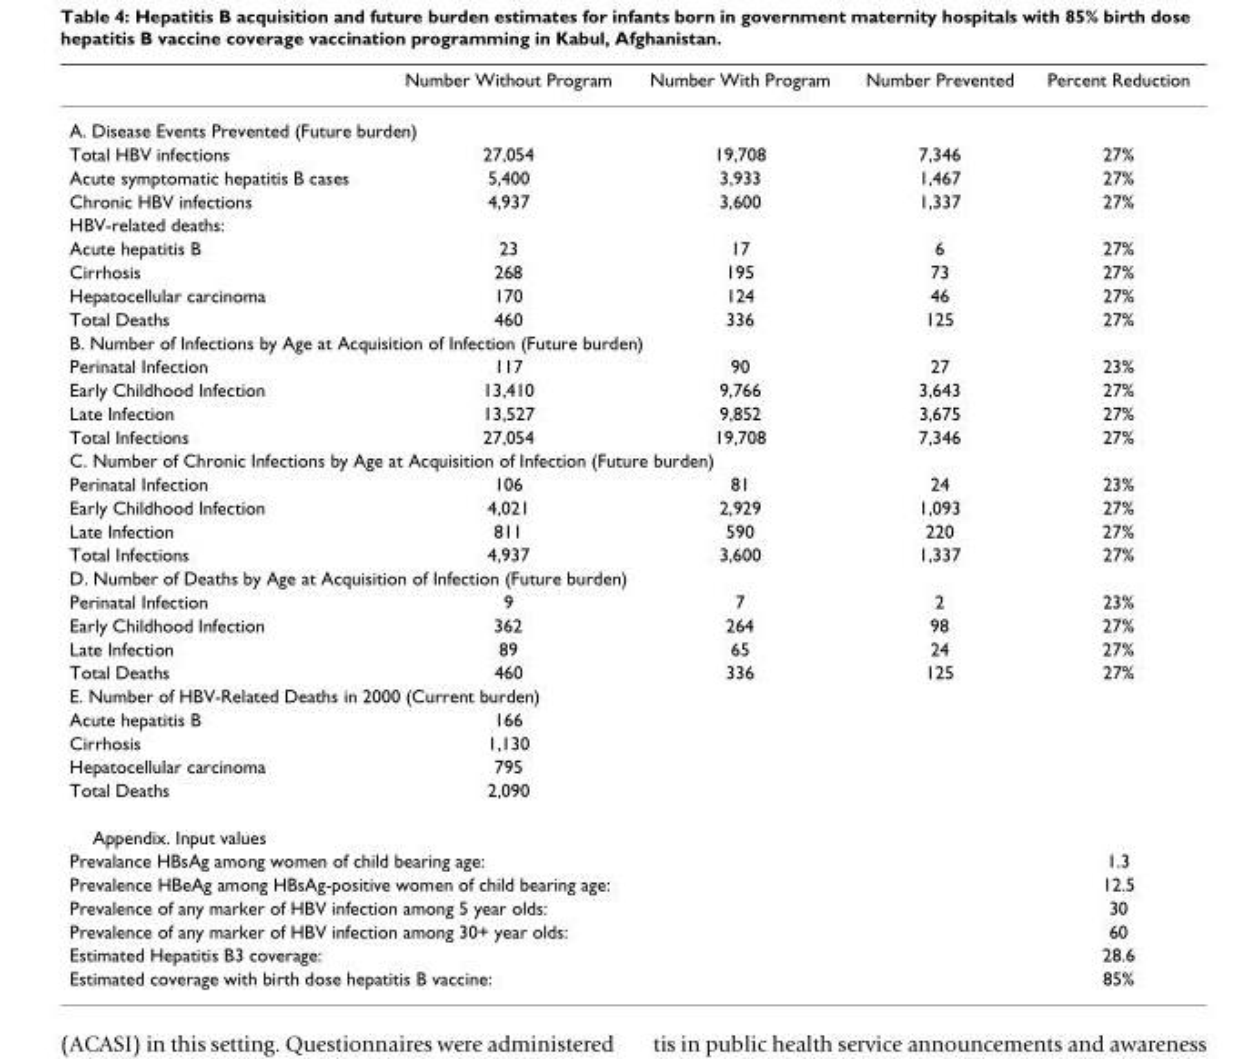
<table><thead><tr><td></td><td>Number Without Program</td><td>Number With Program</td><td>Number Prevented</td><td>Percent Reduction</td></tr></thead><tbody><tr><td colspan="5">A. Disease Events Prevented (Future burden)</td></tr><tr><td>Total HBV infections</td><td>27,054</td><td>19,708</td><td>7,346</td><td>27%</td></tr><tr><td>Acute symptomatic hepatitis B cases</td><td>5,400</td><td>3,933</td><td>1,467</td><td>27%</td></tr><tr><td>Chronic HBV infections</td><td>4,937</td><td>3,600</td><td>1,337</td><td>27%</td></tr><tr><td colspan="5">HBV-related deaths:</td></tr><tr><td>Acute hepatitis B</td><td>23</td><td>17</td><td>6</td><td>27%</td></tr><tr><td>Cirrhosis</td><td>268</td><td>195</td><td>73</td><td>27%</td></tr><tr><td>Hepatocellular carcinoma</td><td>170</td><td>124</td><td>46</td><td>27%</td></tr><tr><td>Total Deaths</td><td>460</td><td>336</td><td>125</td><td>27%</td></tr><tr><td colspan="5">B. Number of Infections by Age at Acquisition of Infection (Future burden)</td></tr><tr><td>Perinatal Infection</td><td>117</td><td>90</td><td>27</td><td>23%</td></tr><tr><td>Early Childhood Infection</td><td>13,410</td><td>9,766</td><td>3,643</td><td>27%</td></tr><tr><td>Late Infection</td><td>13,527</td><td>9,852</td><td>3,675</td><td>27%</td></tr><tr><td>Total Infections</td><td>27,054</td><td>19,708</td><td>7,346</td><td>27%</td></tr><tr><td colspan="5">C. Number of Chronic Infections by Age at Acquisition of Infection (Future burden)</td></tr><tr><td>Perinatal Infection</td><td>106</td><td>81</td><td>24</td><td>23%</td></tr><tr><td>Early Childhood Infection</td><td>4,021</td><td>2,929</td><td>1,093</td><td>27%</td></tr><tr><td>Late Infection</td><td>811</td><td>590</td><td>220</td><td>27%</td></tr><tr><td>Total Infections</td><td>4,937</td><td>3,600</td><td>1,337</td><td>27%</td></tr><tr><td colspan="5">D. Number of Deaths by Age at Acquisition of Infection (Future burden)</td></tr><tr><td>Perinatal Infection</td><td>9</td><td>7</td><td>2</td><td>23%</td></tr><tr><td>Early Childhood Infection</td><td>362</td><td>264</td><td>98</td><td>27%</td></tr><tr><td>Late Infection</td><td>89</td><td>65</td><td>24</td><td>27%</td></tr><tr><td>Total Deaths</td><td>460</td><td>336</td><td>125</td><td>27%</td></tr><tr><td colspan="5">E. Number of HBV-Related Deaths in 2000 (Current burden)</td></tr><tr><td>Acute hepatitis B</td><td>166</td><td></td><td></td><td></td></tr><tr><td>Cirrhosis</td><td>1,130</td><td></td><td></td><td></td></tr><tr><td>Hepatocellular carcinoma</td><td>795</td><td></td><td></td><td></td></tr><tr><td>Total Deaths</td><td>2,090</td><td></td><td></td><td></td></tr><tr><td colspan="5">Appendix. Input values</td></tr><tr><td colspan="4">Prevalance HBsAg among women of child bearing age:</td><td>1.3</td></tr><tr><td colspan="4">Prevalence HBeAg among HBsAg-positive women of child bearing age:</td><td>12.5</td></tr><tr><td colspan="4">Prevalence of any marker of HBV infection among 5 year olds:</td><td>30</td></tr><tr><td colspan="4">Prevalence of any marker of HBV infection among 30+ year olds:</td><td>60</td></tr><tr><td colspan="4">Estimated Hepatitis B3 coverage:</td><td>28.6</td></tr><tr><td colspan="4">Estimated coverage with birth dose hepatitis B vaccine:</td><td>85%</td></tr></tbody></table>